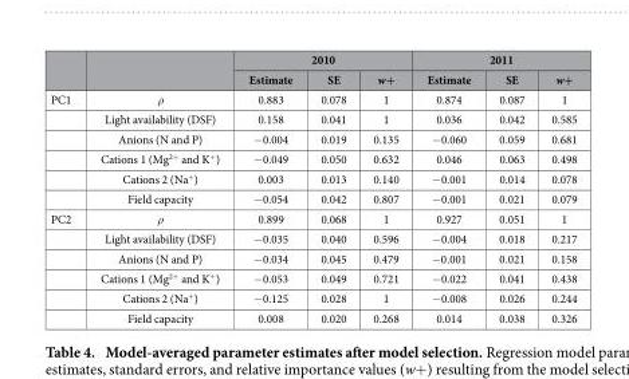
<table><thead><tr><td rowspan="2"></td><td rowspan="2"></td><td colspan="3">2010</td><td colspan="3">2011</td></tr><tr><td>Estimate</td><td>SE</td><td>w+</td><td>Estimate</td><td>SE</td><td>w+</td></tr></thead><tbody><tr><td rowspan="6">PC1</td><td>ρ</td><td>0.883</td><td>0.078</td><td>1</td><td>0.874</td><td>0.087</td><td>1</td></tr><tr><td>Light availability (DSF)</td><td>0.158</td><td>0.041</td><td>1</td><td>0.036</td><td>0.042</td><td>0.585</td></tr><tr><td>Anions (N and P)</td><td>− 0.004</td><td>0.019</td><td>0.135</td><td>− 0.060</td><td>0.059</td><td>0.681</td></tr><tr><td>Cations 1 (Mg<sup>2+</sup> and K<sup>+</sup>)</td><td>− 0.049</td><td>0.050</td><td>0.632</td><td>0.046</td><td>0.063</td><td>0.498</td></tr><tr><td>Cations 2 (Na<sup>+</sup>)</td><td>0.003</td><td>0.013</td><td>0.140</td><td>− 0.001</td><td>0.014</td><td>0.078</td></tr><tr><td>Field capacity</td><td>− 0.054</td><td>0.042</td><td>0.807</td><td>− 0.001</td><td>0.021</td><td>0.079</td></tr><tr><td rowspan="6">PC2</td><td>ρ</td><td>0.899</td><td>0.068</td><td>1</td><td>0.927</td><td>0.051</td><td>1</td></tr><tr><td>Light availability (DSF)</td><td>− 0.035</td><td>0.040</td><td>0.596</td><td>− 0.004</td><td>0.018</td><td>0.217</td></tr><tr><td>Anions (N and P)</td><td>− 0.034</td><td>0.045</td><td>0.479</td><td>− 0.001</td><td>0.021</td><td>0.158</td></tr><tr><td>Cations 1 (Mg<sup>2+</sup> and K<sup>+</sup>)</td><td>− 0.053</td><td>0.049</td><td>0.721</td><td>− 0.022</td><td>0.041</td><td>0.438</td></tr><tr><td>Cations 2 (Na<sup>+</sup>)</td><td>− 0.125</td><td>0.028</td><td>1</td><td>− 0.008</td><td>0.026</td><td>0.244</td></tr><tr><td>Field capacity</td><td>0.008</td><td>0.020</td><td>0.268</td><td>0.014</td><td>0.038</td><td>0.326</td></tr></tbody></table>